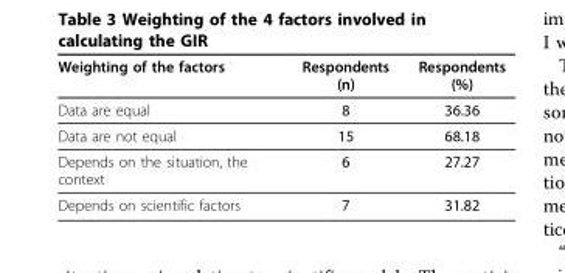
<table><thead><tr><td>Weighting of the factors</td><td>Respondents (n)</td><td>Respondents (%)</td></tr></thead><tbody><tr><td>Data are equal</td><td>8</td><td>36.36</td></tr><tr><td>Data are not equal</td><td>15</td><td>68.18</td></tr><tr><td>Depends on the situation, the context</td><td>6</td><td>27.27</td></tr><tr><td>Depends on scientific factors</td><td>7</td><td>31.82</td></tr></tbody></table>